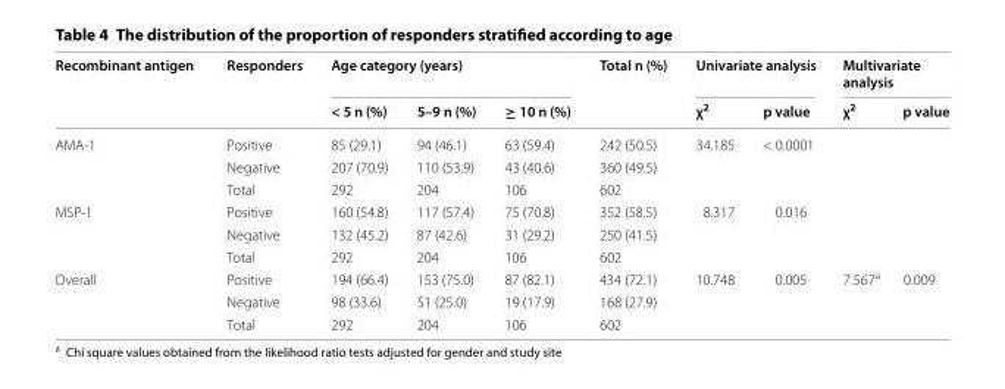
<table><thead><tr><td rowspan="2">Recombinant antigen</td><td rowspan="2">Responders</td><td colspan="3">Age category (years)</td><td rowspan="2">Total n (%)</td><td colspan="2">Univariate analysis</td><td colspan="2">Multivariate analysis</td></tr><tr><td>&lt; 5 n (%)</td><td>5–9 n (%)</td><td>≥ 10 n (%)</td><td>χ<sup>2</sup></td><td>p value</td><td>χ<sup>2</sup></td><td>p value</td></tr></thead><tbody><tr><td rowspan="3">AMA‑1</td><td>Positive</td><td>85 (29.1)</td><td>94 (46.1)</td><td>63 (59.4)</td><td>242 (50.5)</td><td rowspan="3">34.185</td><td rowspan="3">&lt; 0.0001</td><td rowspan="3"></td><td rowspan="3"></td></tr><tr><td>Negative</td><td>207 (70.9)</td><td>110 (53.9)</td><td>43 (40.6)</td><td>360 (49.5)</td></tr><tr><td>Total</td><td>292</td><td>204</td><td>106</td><td>602</td></tr><tr><td rowspan="3">MSP‑1</td><td>Positive</td><td>160 (54.8)</td><td>117 (57.4)</td><td>75 (70.8)</td><td>352 (58.5)</td><td rowspan="3">8.317</td><td rowspan="3">0.016</td><td rowspan="3"></td><td rowspan="3"></td></tr><tr><td>Negative</td><td>132 (45.2)</td><td>87 (42.6)</td><td>31 (29.2)</td><td>250 (41.5)</td></tr><tr><td>Total</td><td>292</td><td>204</td><td>106</td><td>602</td></tr><tr><td rowspan="3">Overall</td><td>Positive</td><td>194 (66.4)</td><td>153 (75.0)</td><td>87 (82.1)</td><td>434 (72.1)</td><td rowspan="3">10.748</td><td rowspan="3">0.005</td><td rowspan="3">7.567<sup>a</sup></td><td rowspan="3">0.009</td></tr><tr><td>Negative</td><td>98 (33.6)</td><td>51 (25.0)</td><td>19 (17.9)</td><td>168 (27.9)</td></tr><tr><td>Total</td><td>292</td><td>204</td><td>106</td><td>602</td></tr></tbody></table>